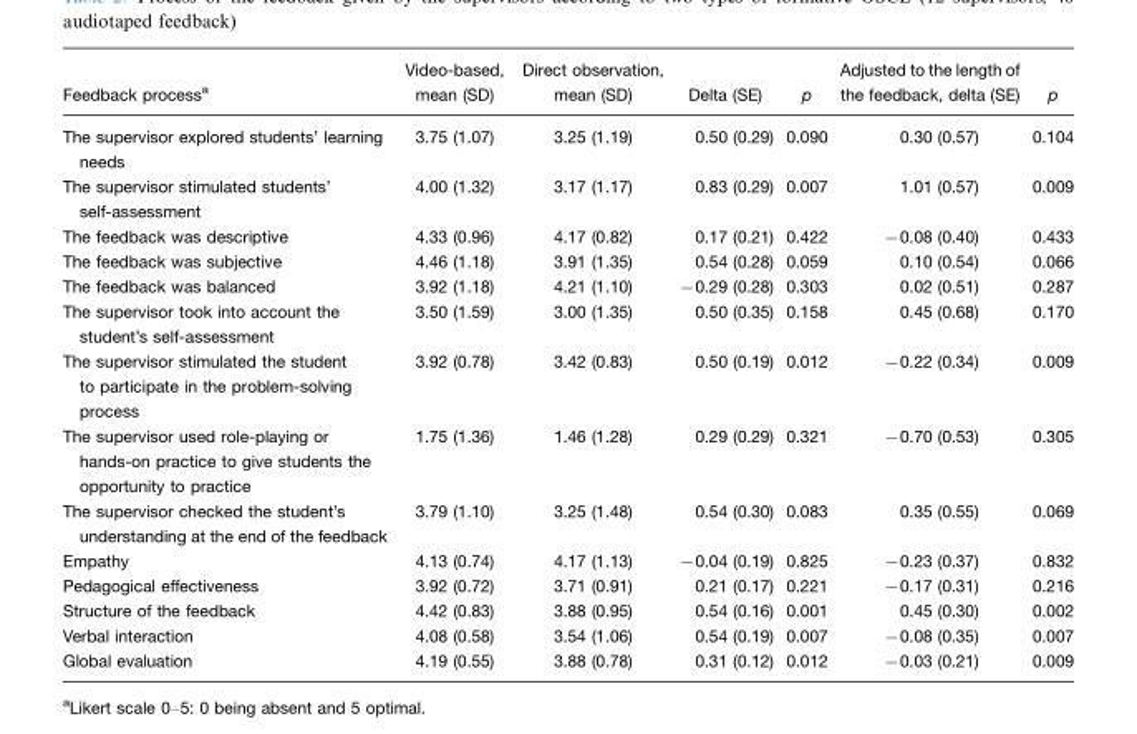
<table><thead><tr><td>Feedback process<sup>a</sup></td><td>Video-based, mean (SD)</td><td>Direct observation, mean (SD)</td><td>Delta (SE)</td><td>p</td><td>Adjusted to the length of the feedback, delta (SE)</td><td>p</td></tr></thead><tbody><tr><td>The supervisor explored students’ learning needs</td><td>3.75 (1.07)</td><td>3.25 (1.19)</td><td>0.50 (0.29)</td><td>0.090</td><td>0.30 (0.57)</td><td>0.104</td></tr><tr><td>The supervisor stimulated students’ self-assessment</td><td>4.00 (1.32)</td><td>3.17 (1.17)</td><td>0.83 (0.29)</td><td>0.007</td><td>1.01 (0.57)</td><td>0.009</td></tr><tr><td>The feedback was descriptive</td><td>4.33 (0.96)</td><td>4.17 (0.82)</td><td>0.17 (0.21)</td><td>0.422</td><td>−0.08 (0.40)</td><td>0.433</td></tr><tr><td>The feedback was subjective</td><td>4.46 (1.18)</td><td>3.91 (1.35)</td><td>0.54 (0.28)</td><td>0.059</td><td>0.10 (0.54)</td><td>0.066</td></tr><tr><td>The feedback was balanced</td><td>3.92 (1.18)</td><td>4.21 (1.10)</td><td>−0.29 (0.28)</td><td>0.303</td><td>0.02 (0.51)</td><td>0.287</td></tr><tr><td>The supervisor took into account the student’s self-assessment</td><td>3.50 (1.59)</td><td>3.00 (1.35)</td><td>0.50 (0.35)</td><td>0.158</td><td>0.45 (0.68)</td><td>0.170</td></tr><tr><td>The supervisor stimulated the student to participate in the problem-solving process</td><td>3.92 (0.78)</td><td>3.42 (0.83)</td><td>0.50 (0.19)</td><td>0.012</td><td>−0.22 (0.34)</td><td>0.009</td></tr><tr><td>The supervisor used role-playing or hands-on practice to give students the opportunity to practice</td><td>1.75 (1.36)</td><td>1.46 (1.28)</td><td>0.29 (0.29)</td><td>0.321</td><td>−0.70 (0.53)</td><td>0.305</td></tr><tr><td>The supervisor checked the student’s understanding at the end of the feedback</td><td>3.79 (1.10)</td><td>3.25 (1.48)</td><td>0.54 (0.30)</td><td>0.083</td><td>0.35 (0.55)</td><td>0.069</td></tr><tr><td>Empathy</td><td>4.13 (0.74)</td><td>4.17 (1.13)</td><td>−0.04 (0.19)</td><td>0.825</td><td>−0.23 (0.37)</td><td>0.832</td></tr><tr><td>Pedagogical effectiveness</td><td>3.92 (0.72)</td><td>3.71 (0.91)</td><td>0.21 (0.17)</td><td>0.221</td><td>−0.17 (0.31)</td><td>0.216</td></tr><tr><td>Structure of the feedback</td><td>4.42 (0.83)</td><td>3.88 (0.95)</td><td>0.54 (0.16)</td><td>0.001</td><td>0.45 (0.30)</td><td>0.002</td></tr><tr><td>Verbal interaction</td><td>4.08 (0.58)</td><td>3.54 (1.06)</td><td>0.54 (0.19)</td><td>0.007</td><td>−0.08 (0.35)</td><td>0.007</td></tr><tr><td>Global evaluation</td><td>4.19 (0.55)</td><td>3.88 (0.78)</td><td>0.31 (0.12)</td><td>0.012</td><td>−0.03 (0.21)</td><td>0.009</td></tr></tbody></table>